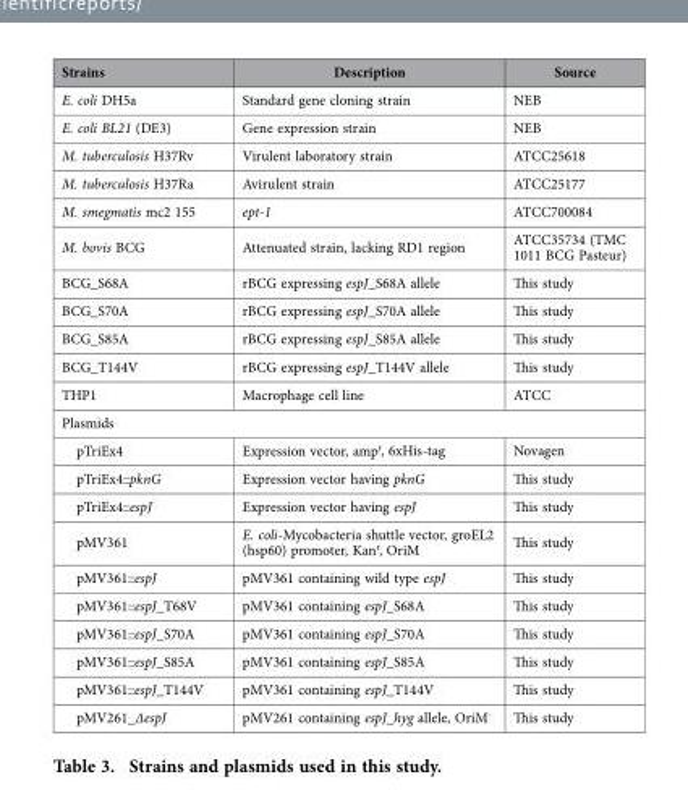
<table><thead><tr><td>Strains</td><td>Description</td><td>Source</td></tr></thead><tbody><tr><td>E. coli DH5a</td><td>Standard gene cloning strain</td><td>NEB</td></tr><tr><td>E. coli BL21 (DE3)</td><td>Gene expression strain</td><td>NEB</td></tr><tr><td>M. tuberculosis H37Rv</td><td>Virulent laboratory strain</td><td>ATCC25618</td></tr><tr><td>M. tuberculosis H37Ra</td><td>Avirulent strain</td><td>ATCC25177</td></tr><tr><td>M. smegmatis mc2 155</td><td>ept-1</td><td>ATCC700084</td></tr><tr><td>M. bovis BCG</td><td>Attenuated strain, lacking RD1 region</td><td>ATCC35734 (TMC 1011 BCG Pasteur)</td></tr><tr><td>BCG_S68A</td><td>rBCG expressing espJ_S68A allele</td><td>This study</td></tr><tr><td>BCG_S70A</td><td>rBCG expressing espJ_S70A allele</td><td>This study</td></tr><tr><td>BCG_S85A</td><td>rBCG expressing espJ_S85A allele</td><td>This study</td></tr><tr><td>BCG_T144V</td><td>rBCG expressing espJ_T144V allele</td><td>This study</td></tr><tr><td>THP1</td><td>Macrophage cell line</td><td>ATCC</td></tr><tr><td colspan="3">Plasmids</td></tr><tr><td>pTriEx4</td><td>Expression vector, amp<sup>r</sup>, 6xHis-tag</td><td>Novagen</td></tr><tr><td>pTriEx4::pknG</td><td>Expression vector having pknG</td><td>This study</td></tr><tr><td>pTriEx4::espJ</td><td>Expression vector having espJ</td><td>This study</td></tr><tr><td>pMV361</td><td>E. coli-Mycobacteria shuttle vector, groEL2 (hsp60) promoter, Kan<sup>r</sup>, OriM</td><td>This study</td></tr><tr><td>pMV361::espJ</td><td>pMV361 containing wild type espJ</td><td>This study</td></tr><tr><td>pMV361::espJ_T68V</td><td>pMV361 containing espJ_S68A</td><td>This study</td></tr><tr><td>pMV361::espJ_S70A</td><td>pMV361 containing espJ_S70A</td><td>This study</td></tr><tr><td>pMV361::espJ_S85A</td><td>pMV361 containing espJ_S85A</td><td>This study</td></tr><tr><td>pMV361::espJ_T144V</td><td>pMV361 containing espJ_T144V</td><td>This study</td></tr><tr><td>pMV261_∆espJ</td><td>pMV261 containing espJ_hyg allele, OriM<sup>-</sup></td><td>This study</td></tr></tbody></table>